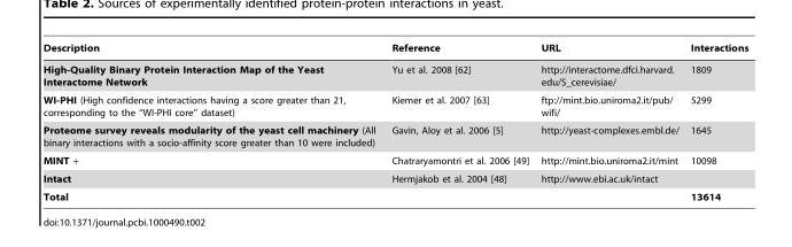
<table><thead><tr><td>Description</td><td>Reference</td><td>URL</td><td>Interactions</td></tr></thead><tbody><tr><td>High-Quality Binary Protein Interaction Map of the Yeast Interactome Network</td><td>Yu et al. 2008 [62]</td><td>http://interactome.dfci.harvard. edu/S_cerevisiae/</td><td>1809</td></tr><tr><td>WI-PHI (High confidence interactions having a score greater than 21, corresponding to the ‘‘WI-PHI core’’ dataset)</td><td>Kiemer et al. 2007 [63]</td><td>ftp://mint.bio.uniroma2.it/pub/ wifi/</td><td>5299</td></tr><tr><td>Proteome survey reveals modularity of the yeast cell machinery (All binary interactions with a socio-affinity score greater than 10 were included)</td><td>Gavin, Aloy et al. 2006 [5]</td><td>http://yeast-complexes.embl.de/</td><td>1645</td></tr><tr><td>MINT +</td><td>Chatraryamontri et al. 2006 [49]</td><td>http://mint.bio.uniroma2.it/mint</td><td>10098</td></tr><tr><td>Intact</td><td>Hermjakob et al. 2004 [48]</td><td>http://www.ebi.ac.uk/intact</td><td></td></tr><tr><td>Total</td><td></td><td></td><td>13614</td></tr></tbody></table>